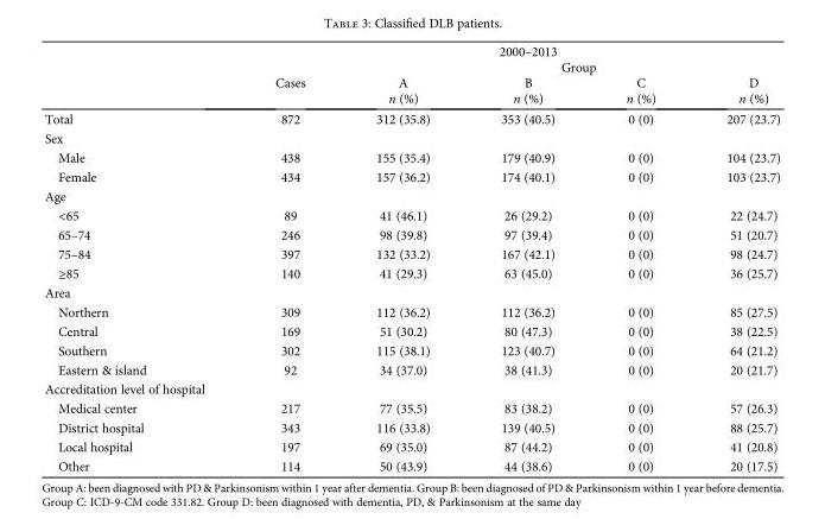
<table><thead><tr><td rowspan="4"></td><td colspan="5">2000–2013</td></tr><tr><td rowspan="3">Cases</td><td colspan="4">Group</td></tr><tr><td rowspan="2">A n (%)</td><td rowspan="2">B n (%)</td><td rowspan="2">C n (%)</td><td rowspan="2">D n (%)</td></tr><tr></tr></thead><tbody><tr><td>Total</td><td>872</td><td>312 (35.8)</td><td>353 (40.5)</td><td>0 (0)</td><td>207 (23.7)</td></tr><tr><td colspan="6">Sex</td></tr><tr><td>Male</td><td>438</td><td>155 (35.4)</td><td>179 (40.9)</td><td>0 (0)</td><td>104 (23.7)</td></tr><tr><td>Female</td><td>434</td><td>157 (36.2)</td><td>174 (40.1)</td><td>0 (0)</td><td>103 (23.7)</td></tr><tr><td colspan="6">Age</td></tr><tr><td>&lt;65</td><td>89</td><td>41 (46.1)</td><td>26 (29.2)</td><td>0 (0)</td><td>22 (24.7)</td></tr><tr><td>65–74</td><td>246</td><td>98 (39.8)</td><td>97 (39.4)</td><td>0 (0)</td><td>51 (20.7)</td></tr><tr><td>75–84</td><td>397</td><td>132 (33.2)</td><td>167 (42.1)</td><td>0 (0)</td><td>98 (24.7)</td></tr><tr><td>≥85</td><td>140</td><td>41 (29.3)</td><td>63 (45.0)</td><td>0 (0)</td><td>36 (25.7)</td></tr><tr><td colspan="6">Area</td></tr><tr><td>Northern</td><td>309</td><td>112 (36.2)</td><td>112 (36.2)</td><td>0 (0)</td><td>85 (27.5)</td></tr><tr><td>Central</td><td>169</td><td>51 (30.2)</td><td>80 (47.3)</td><td>0 (0)</td><td>38 (22.5)</td></tr><tr><td>Southern</td><td>302</td><td>115 (38.1)</td><td>123 (40.7)</td><td>0 (0)</td><td>64 (21.2)</td></tr><tr><td>Eastern &amp; island</td><td>92</td><td>34 (37.0)</td><td>38 (41.3)</td><td>0 (0)</td><td>20 (21.7)</td></tr><tr><td colspan="6">Accreditation level of hospital</td></tr><tr><td>Medical center</td><td>217</td><td>77 (35.5)</td><td>83 (38.2)</td><td>0 (0)</td><td>57 (26.3)</td></tr><tr><td>District hospital</td><td>343</td><td>116 (33.8)</td><td>139 (40.5)</td><td>0 (0)</td><td>88 (25.7)</td></tr><tr><td>Local hospital</td><td>197</td><td>69 (35.0)</td><td>87 (44.2)</td><td>0 (0)</td><td>41 (20.8)</td></tr><tr><td>Other</td><td>114</td><td>50 (43.9)</td><td>44 (38.6)</td><td>0 (0)</td><td>20 (17.5)</td></tr></tbody></table>